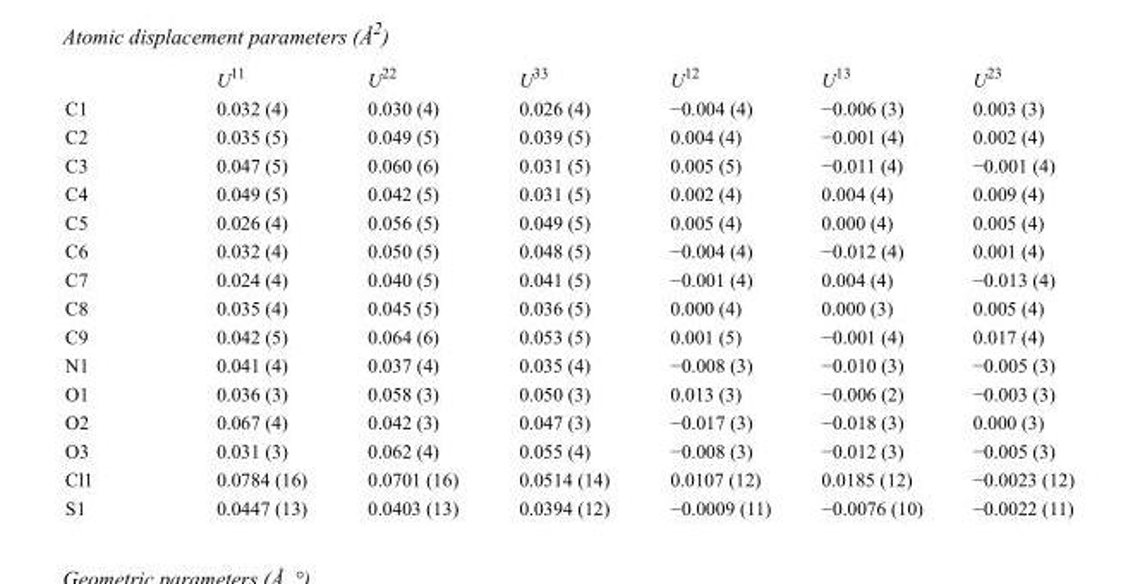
<table><thead><tr><td></td><td>U<sup>11</sup></td><td>U<sup>22</sup></td><td>U<sup>33</sup></td><td>U<sup>12</sup></td><td>U<sup>13</sup></td><td>U<sup>23</sup></td></tr></thead><tbody><tr><td>C1</td><td>0.032 (4)</td><td>0.030 (4)</td><td>0.026 (4)</td><td>−0.004 (4)</td><td>−0.006 (3)</td><td>0.003 (3)</td></tr><tr><td>C2</td><td>0.035 (5)</td><td>0.049 (5)</td><td>0.039 (5)</td><td>0.004 (4)</td><td>−0.001 (4)</td><td>0.002 (4)</td></tr><tr><td>C3</td><td>0.047 (5)</td><td>0.060 (6)</td><td>0.031 (5)</td><td>0.005 (5)</td><td>−0.011 (4)</td><td>−0.001 (4)</td></tr><tr><td>C4</td><td>0.049 (5)</td><td>0.042 (5)</td><td>0.031 (5)</td><td>0.002 (4)</td><td>0.004 (4)</td><td>0.009 (4)</td></tr><tr><td>C5</td><td>0.026 (4)</td><td>0.056 (5)</td><td>0.049 (5)</td><td>0.005 (4)</td><td>0.000 (4)</td><td>0.005 (4)</td></tr><tr><td>C6</td><td>0.032 (4)</td><td>0.050 (5)</td><td>0.048 (5)</td><td>−0.004 (4)</td><td>−0.012 (4)</td><td>0.001 (4)</td></tr><tr><td>C7</td><td>0.024 (4)</td><td>0.040 (5)</td><td>0.041 (5)</td><td>−0.001 (4)</td><td>0.004 (4)</td><td>−0.013 (4)</td></tr><tr><td>C8</td><td>0.035 (4)</td><td>0.045 (5)</td><td>0.036 (5)</td><td>0.000 (4)</td><td>0.000 (3)</td><td>0.005 (4)</td></tr><tr><td>C9</td><td>0.042 (5)</td><td>0.064 (6)</td><td>0.053 (5)</td><td>0.001 (5)</td><td>−0.001 (4)</td><td>0.017 (4)</td></tr><tr><td>N1</td><td>0.041 (4)</td><td>0.037 (4)</td><td>0.035 (4)</td><td>−0.008 (3)</td><td>−0.010 (3)</td><td>−0.005 (3)</td></tr><tr><td>O1</td><td>0.036 (3)</td><td>0.058 (3)</td><td>0.050 (3)</td><td>0.013 (3)</td><td>−0.006 (2)</td><td>−0.003 (3)</td></tr><tr><td>O2</td><td>0.067 (4)</td><td>0.042 (3)</td><td>0.047 (3)</td><td>−0.017 (3)</td><td>−0.018 (3)</td><td>0.000 (3)</td></tr><tr><td>O3</td><td>0.031 (3)</td><td>0.062 (4)</td><td>0.055 (4)</td><td>−0.008 (3)</td><td>−0.012 (3)</td><td>−0.005 (3)</td></tr><tr><td>Cl1</td><td>0.0784 (16)</td><td>0.0701 (16)</td><td>0.0514 (14)</td><td>0.0107 (12)</td><td>0.0185 (12)</td><td>−0.0023 (12)</td></tr><tr><td>S1</td><td>0.0447 (13)</td><td>0.0403 (13)</td><td>0.0394 (12)</td><td>−0.0009 (11)</td><td>−0.0076 (10)</td><td>−0.0022 (11)</td></tr></tbody></table>